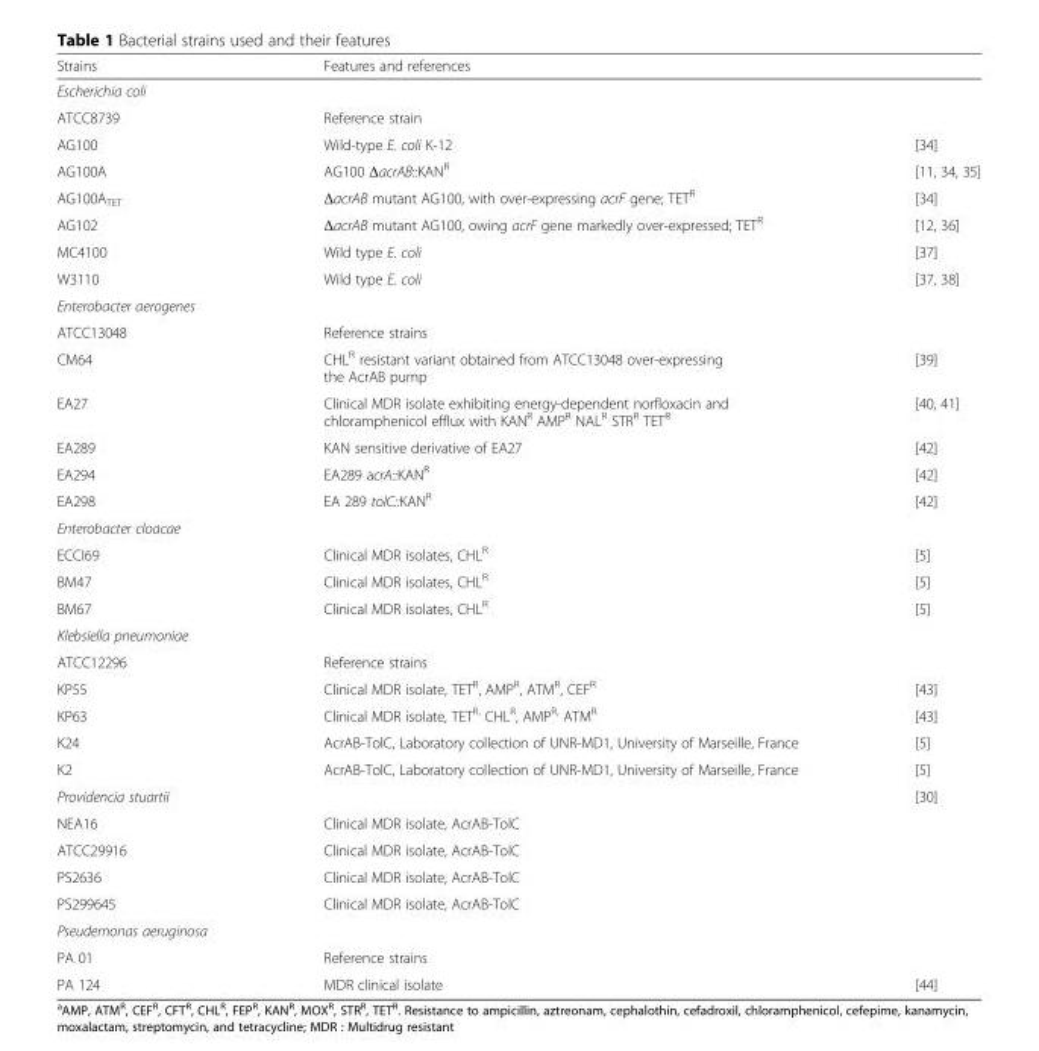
<table><thead><tr><td>Strains</td><td>Features and references</td><td></td></tr></thead><tbody><tr><td colspan="3">Escherichia coli</td></tr><tr><td>ATCC8739</td><td>Reference strain</td><td></td></tr><tr><td>AG100</td><td>Wild-type E. coli K-12</td><td>[34]</td></tr><tr><td>AG100A</td><td>AG100 ΔacrAB::KAN<sup>R</sup></td><td>[11, 34, 35]</td></tr><tr><td>AG100A<sub>TET</sub></td><td>ΔacrAB mutant AG100, with over-expressing acrF gene; TET<sup>R</sup></td><td>[34]</td></tr><tr><td>AG102</td><td>ΔacrAB mutant AG100, owing acrF gene markedly over-expressed; TET<sup>R</sup></td><td>[12, 36]</td></tr><tr><td>MC4100</td><td>Wild type E. coli</td><td>[37]</td></tr><tr><td>W3110</td><td>Wild type E. coli</td><td>[37, 38]</td></tr><tr><td colspan="3">Enterobacter aerogenes</td></tr><tr><td>ATCC13048</td><td>Reference strains</td><td></td></tr><tr><td>CM64</td><td>CHL<sup>R</sup> resistant variant obtained from ATCC13048 over-expressing the AcrAB pump</td><td>[39]</td></tr><tr><td>EA27</td><td>Clinical MDR isolate exhibiting energy-dependent norfloxacin and chloramphenicol efflux with KAN<sup>R</sup> AMP<sup>R</sup> NAL<sup>R</sup> STR<sup>R</sup> TET<sup>R</sup></td><td>[40, 41]</td></tr><tr><td>EA289</td><td>KAN sensitive derivative of EA27</td><td>[42]</td></tr><tr><td>EA294</td><td>EA289 acrA::KAN<sup>R</sup></td><td>[42]</td></tr><tr><td>EA298</td><td>EA 289 tolC::KAN<sup>R</sup></td><td>[42]</td></tr><tr><td colspan="3">Enterobacter cloacae</td></tr><tr><td>ECCI69</td><td>Clinical MDR isolates, CHL<sup>R</sup></td><td>[5]</td></tr><tr><td>BM47</td><td>Clinical MDR isolates, CHL<sup>R</sup></td><td>[5]</td></tr><tr><td>BM67</td><td>Clinical MDR isolates, CHL<sup>R</sup></td><td>[5]</td></tr><tr><td colspan="3">Klebsiella pneumoniae</td></tr><tr><td>ATCC12296</td><td>Reference strains</td><td></td></tr><tr><td>KP55</td><td>Clinical MDR isolate, TET<sup>R</sup>, AMP<sup>R</sup>, ATM<sup>R</sup>, CEF<sup>R</sup></td><td>[43]</td></tr><tr><td>KP63</td><td>Clinical MDR isolate, TET<sup>R,</sup> CHL<sup>R</sup>, AMP<sup>R,</sup> ATM<sup>R</sup></td><td>[43]</td></tr><tr><td>K24</td><td>AcrAB-TolC, Laboratory collection of UNR-MD1, University of Marseille, France</td><td>[5]</td></tr><tr><td>K2</td><td>AcrAB-TolC, Laboratory collection of UNR-MD1, University of Marseille, France</td><td>[5]</td></tr><tr><td colspan="2">Providencia stuartii</td><td rowspan="5">[30]</td></tr><tr><td>NEA16</td><td>Clinical MDR isolate, AcrAB-TolC</td></tr><tr><td>ATCC29916</td><td>Clinical MDR isolate, AcrAB-TolC</td></tr><tr><td>PS2636</td><td>Clinical MDR isolate, AcrAB-TolC</td></tr><tr><td>PS299645</td><td>Clinical MDR isolate, AcrAB-TolC</td></tr><tr><td colspan="3">Pseudemonas aeruginosa</td></tr><tr><td>PA 01</td><td>Reference strains</td><td></td></tr><tr><td>PA 124</td><td>MDR clinical isolate</td><td>[44]</td></tr></tbody></table>